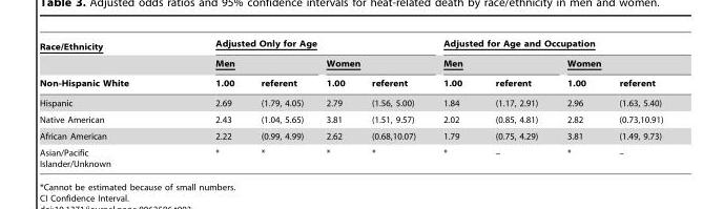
<table><thead><tr><td rowspan="3">Race/Ethnicity Non-Hispanic White</td><td colspan="4">Adjusted Only for Age</td><td colspan="4">Adjusted for Age and Occupation</td></tr><tr><td colspan="2">Men</td><td colspan="2">Women</td><td colspan="2">Men</td><td colspan="2">Women</td></tr><tr><td>1.00</td><td>referent</td><td>1.00</td><td>referent</td><td>1.00</td><td>referent</td><td>1.00</td><td>referent</td></tr></thead><tbody><tr><td>Hispanic</td><td>2.69</td><td>(1.79, 4.05)</td><td>2.79</td><td>(1.56, 5.00)</td><td>1.84</td><td>(1.17, 2.91)</td><td>2.96</td><td>(1.63, 5.40)</td></tr><tr><td>Native American</td><td>2.43</td><td>(1.04, 5.65)</td><td>3.81</td><td>(1.51, 9.57)</td><td>2.02</td><td>(0.85, 4.81)</td><td>2.82</td><td>(0.73,10.91)</td></tr><tr><td>African American</td><td>2.22</td><td>(0.99, 4.99)</td><td>2.62</td><td>(0.68,10.07)</td><td>1.79</td><td>(0.75, 4.29)</td><td>3.81</td><td>(1.49, 9.73)</td></tr><tr><td>Asian/Pacific Islander/Unknown</td><td>*</td><td>*</td><td>*</td><td>*</td><td>*</td><td>–</td><td>*</td><td>–</td></tr></tbody></table>